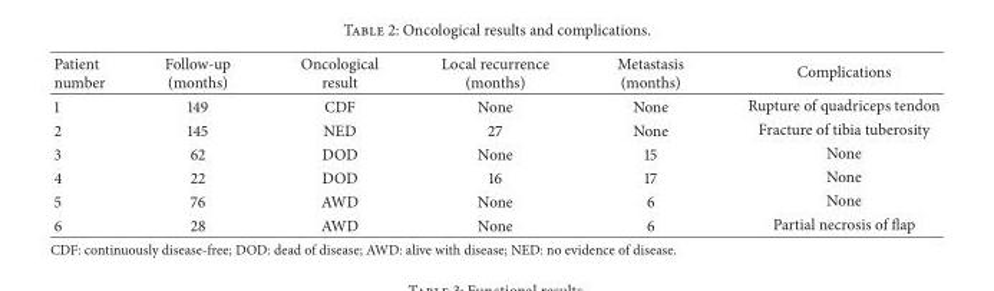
<table><thead><tr><td>Patient number</td><td>Follow-up (months)</td><td>Oncological result</td><td>Local recurrence (months)</td><td>Metastasis (months)</td><td>Complications</td></tr></thead><tbody><tr><td>1</td><td>149</td><td>CDF</td><td>None</td><td>None</td><td>Rupture of quadriceps tendon</td></tr><tr><td>2</td><td>145</td><td>NED</td><td>27</td><td>None</td><td>Fracture of tibia tuberosity</td></tr><tr><td>3</td><td>62</td><td>DOD</td><td>None</td><td>15</td><td>None</td></tr><tr><td>4</td><td>22</td><td>DOD</td><td>16</td><td>17</td><td>None</td></tr><tr><td>5</td><td>76</td><td>AWD</td><td>None</td><td>6</td><td>None</td></tr><tr><td>6</td><td>28</td><td>AWD</td><td>None</td><td>6</td><td>Partial necrosis of flap</td></tr></tbody></table>